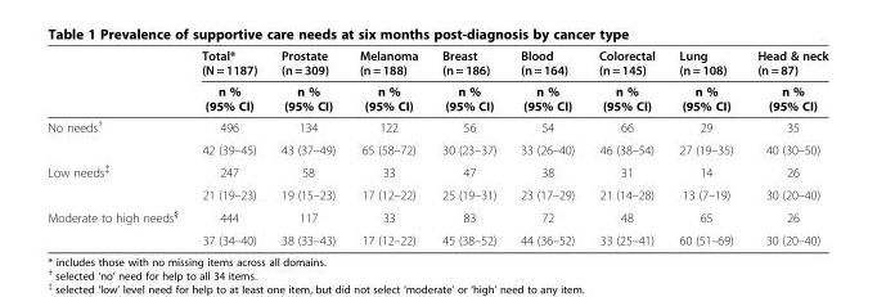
<table><thead><tr><td rowspan="2"></td><td rowspan="2">Total* (N = 1187) n % (95% CI)</td><td rowspan="2">Prostate (n = 309) n % (95% CI)</td><td rowspan="2">Melanoma (n = 188) n % (95% CI)</td><td rowspan="2">Breast (n = 186) n % (95% CI)</td><td rowspan="2">Blood (n = 164) n % (95% CI)</td><td rowspan="2">Colorectal (n = 145) n % (95% CI)</td><td rowspan="2">Lung (n = 108) n % (95% CI)</td><td rowspan="2">Head &amp; neck (n = 87) n % (95% CI)</td></tr><tr></tr></thead><tbody><tr><td rowspan="2">No needs<sup>†</sup></td><td>496</td><td>134</td><td>122</td><td>56</td><td>54</td><td>66</td><td>29</td><td>35</td></tr><tr><td>42 (39–45)</td><td>43 (37–49)</td><td>65 (58–72)</td><td>30 (23–37)</td><td>33 (26–40)</td><td>46 (38–54)</td><td>27 (19–35)</td><td>40 (30–50)</td></tr><tr><td rowspan="2">Low needs<sup>‡</sup></td><td>247</td><td>58</td><td>33</td><td>47</td><td>38</td><td>31</td><td>14</td><td>26</td></tr><tr><td>21 (19–23)</td><td>19 (15–23)</td><td>17 (12–22)</td><td>25 (19–31)</td><td>23 (17–29)</td><td>21 (14–28)</td><td>13 (7–19)</td><td>30 (20–40)</td></tr><tr><td rowspan="2">Moderate to high needs<sup>§</sup></td><td>444</td><td>117</td><td>33</td><td>83</td><td>72</td><td>48</td><td>65</td><td>26</td></tr><tr><td>37 (34–40)</td><td>38 (33–43)</td><td>17 (12–22)</td><td>45 (38–52)</td><td>44 (36–52)</td><td>33 (25–41)</td><td>60 (51–69)</td><td>30 (20–40)</td></tr></tbody></table>